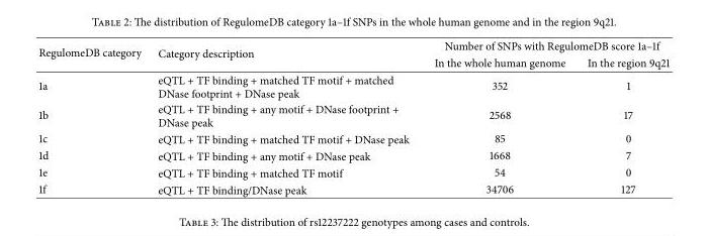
<table><thead><tr><td rowspan="2">RegulomeDB category</td><td rowspan="2">Category description</td><td colspan="2">Number of SNPs with RegulomeDB score 1a–1f</td></tr><tr><td>In the whole human genome</td><td>In the region 9q21</td></tr></thead><tbody><tr><td>1a</td><td>eQTL + TF binding + matched TF motif + matched DNase footprint + DNase peak</td><td>352</td><td>1</td></tr><tr><td>1b</td><td>eQTL + TF binding + any motif + DNase footprint + DNase peak</td><td>2568</td><td>17</td></tr><tr><td>1c</td><td>eQTL + TF binding + matched TF motif + DNase peak</td><td>85</td><td>0</td></tr><tr><td>1d</td><td>eQTL + TF binding + any motif + DNase peak</td><td>1668</td><td>7</td></tr><tr><td>1e</td><td>eQTL + TF binding + matched TF motif</td><td>54</td><td>0</td></tr><tr><td>1f</td><td>eQTL + TF binding/DNase peak</td><td>34706</td><td>127</td></tr></tbody></table>